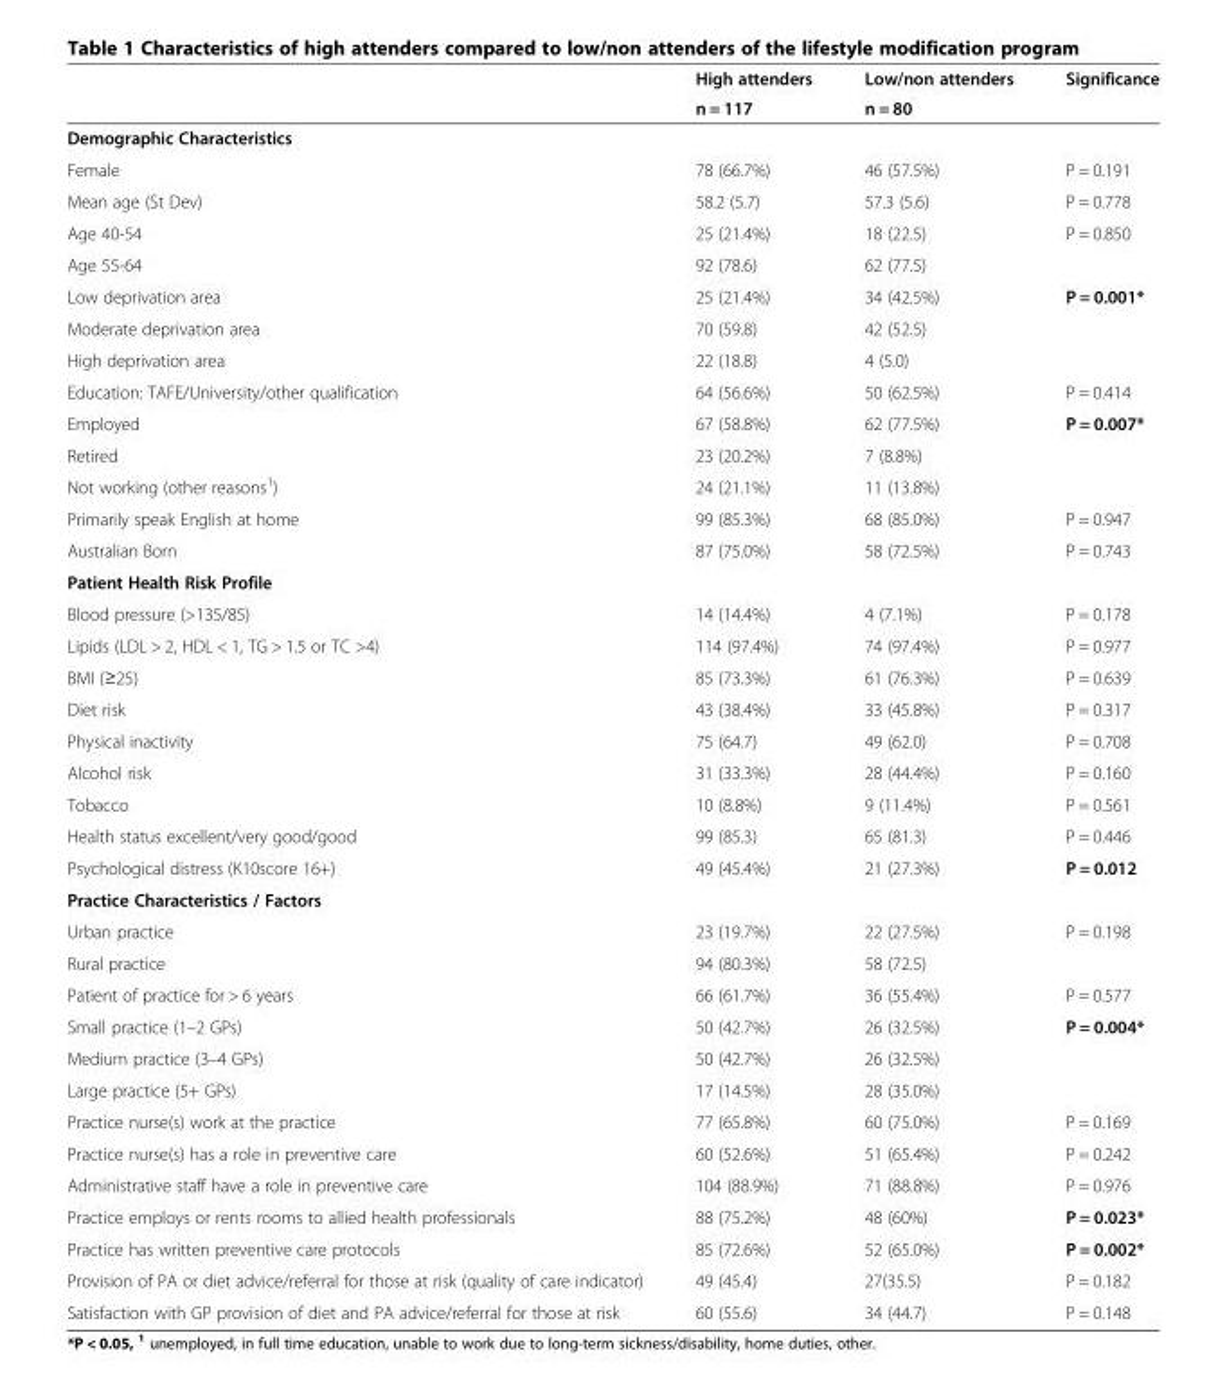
<table><thead><tr><td rowspan="2"></td><td rowspan="2">High attenders n = 117</td><td rowspan="2">Low/non attenders n = 80</td><td rowspan="2">Significance</td></tr><tr></tr></thead><tbody><tr><td colspan="4">Demographic Characteristics</td></tr><tr><td>Female</td><td>78 (66.7%)</td><td>46 (57.5%)</td><td>P = 0.191</td></tr><tr><td>Mean age (St Dev)</td><td>58.2 (5.7)</td><td>57.3 (5.6)</td><td>P = 0.778</td></tr><tr><td>Age 40-54</td><td>25 (21.4%)</td><td>18 (22.5)</td><td rowspan="2">P = 0.850</td></tr><tr><td>Age 55-64</td><td>92 (78.6)</td><td>62 (77.5)</td></tr><tr><td>Low deprivation area</td><td>25 (21.4%)</td><td>34 (42.5%)</td><td rowspan="3">P = 0.001*</td></tr><tr><td>Moderate deprivation area</td><td>70 (59.8)</td><td>42 (52.5)</td></tr><tr><td>High deprivation area</td><td>22 (18.8)</td><td>4 (5.0)</td></tr><tr><td>Education: TAFE/University/other qualification</td><td>64 (56.6%)</td><td>50 (62.5%)</td><td>P = 0.414</td></tr><tr><td>Employed</td><td>67 (58.8%)</td><td>62 (77.5%)</td><td rowspan="3">P = 0.007*</td></tr><tr><td>Retired</td><td>23 (20.2%)</td><td>7 (8.8%)</td></tr><tr><td>Not working (other reasons<sup>1</sup>)</td><td>24 (21.1%)</td><td>11 (13.8%)</td></tr><tr><td>Primarily speak English at home</td><td>99 (85.3%)</td><td>68 (85.0%)</td><td>P = 0.947</td></tr><tr><td>Australian Born</td><td>87 (75.0%)</td><td>58 (72.5%)</td><td>P = 0.743</td></tr><tr><td colspan="4">Patient Health Risk Profile</td></tr><tr><td>Blood pressure (&gt;135/85)</td><td>14 (14.4%)</td><td>4 (7.1%)</td><td>P = 0.178</td></tr><tr><td>Lipids (LDL &gt; 2, HDL &lt; 1, TG &gt; 1.5 or TC &gt;4)</td><td>114 (97.4%)</td><td>74 (97.4%)</td><td>P = 0.977</td></tr><tr><td>BMI (≥25)</td><td>85 (73.3%)</td><td>61 (76.3%)</td><td>P = 0.639</td></tr><tr><td>Diet risk</td><td>43 (38.4%)</td><td>33 (45.8%)</td><td>P = 0.317</td></tr><tr><td>Physical inactivity</td><td>75 (64.7)</td><td>49 (62.0)</td><td>P = 0.708</td></tr><tr><td>Alcohol risk</td><td>31 (33.3%)</td><td>28 (44.4%)</td><td>P = 0.160</td></tr><tr><td>Tobacco</td><td>10 (8.8%)</td><td>9 (11.4%)</td><td>P = 0.561</td></tr><tr><td>Health status excellent/very good/good</td><td>99 (85.3)</td><td>65 (81.3)</td><td>P = 0.446</td></tr><tr><td>Psychological distress (K10score 16+)</td><td>49 (45.4%)</td><td>21 (27.3%)</td><td>P = 0.012</td></tr><tr><td colspan="4">Practice Characteristics / Factors</td></tr><tr><td>Urban practice</td><td>23 (19.7%)</td><td>22 (27.5%)</td><td rowspan="2">P = 0.198</td></tr><tr><td>Rural practice</td><td>94 (80.3%)</td><td>58 (72.5)</td></tr><tr><td>Patient of practice for &gt; 6 years</td><td>66 (61.7%)</td><td>36 (55.4%)</td><td>P = 0.577</td></tr><tr><td>Small practice (1–2 GPs)</td><td>50 (42.7%)</td><td>26 (32.5%)</td><td rowspan="3">P = 0.004*</td></tr><tr><td>Medium practice (3–4 GPs)</td><td>50 (42.7%)</td><td>26 (32.5%)</td></tr><tr><td>Large practice (5+ GPs)</td><td>17 (14.5%)</td><td>28 (35.0%)</td></tr><tr><td>Practice nurse(s) work at the practice</td><td>77 (65.8%)</td><td>60 (75.0%)</td><td>P = 0.169</td></tr><tr><td>Practice nurse(s) has a role in preventive care</td><td>60 (52.6%)</td><td>51 (65.4%)</td><td>P = 0.242</td></tr><tr><td>Administrative staff have a role in preventive care</td><td>104 (88.9%)</td><td>71 (88.8%)</td><td>P = 0.976</td></tr><tr><td>Practice employs or rents rooms to allied health professionals</td><td>88 (75.2%)</td><td>48 (60%)</td><td>P = 0.023*</td></tr><tr><td>Practice has written preventive care protocols</td><td>85 (72.6%)</td><td>52 (65.0%)</td><td>P = 0.002*</td></tr><tr><td>Provision of PA or diet advice/referral for those at risk (quality of care indicator)</td><td>49 (45.4)</td><td>27(35.5)</td><td>P = 0.182</td></tr><tr><td>Satisfaction with GP provision of diet and PA advice/referral for those at risk</td><td>60 (55.6)</td><td>34 (44.7)</td><td>P = 0.148</td></tr></tbody></table>